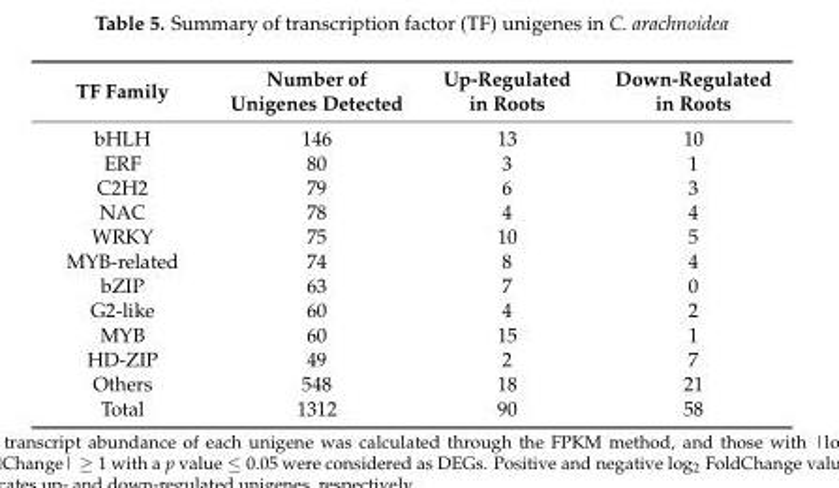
<table><thead><tr><td>TF Family</td><td>Number of Unigenes Detected</td><td>Up-Regulated in Roots</td><td>Down-Regulated in Roots</td></tr></thead><tbody><tr><td>bHLH</td><td>146</td><td>13</td><td>10</td></tr><tr><td>ERF</td><td>80</td><td>3</td><td>1</td></tr><tr><td>C2H2</td><td>79</td><td>6</td><td>3</td></tr><tr><td>NAC</td><td>78</td><td>4</td><td>4</td></tr><tr><td>WRKY</td><td>75</td><td>10</td><td>5</td></tr><tr><td>MYB-related</td><td>74</td><td>8</td><td>4</td></tr><tr><td>bZIP</td><td>63</td><td>7</td><td>0</td></tr><tr><td>G2-like</td><td>60</td><td>4</td><td>2</td></tr><tr><td>MYB</td><td>60</td><td>15</td><td>1</td></tr><tr><td>HD-ZIP</td><td>49</td><td>2</td><td>7</td></tr><tr><td>Others</td><td>548</td><td>18</td><td>21</td></tr><tr><td>Total</td><td>1312</td><td>90</td><td>58</td></tr></tbody></table>